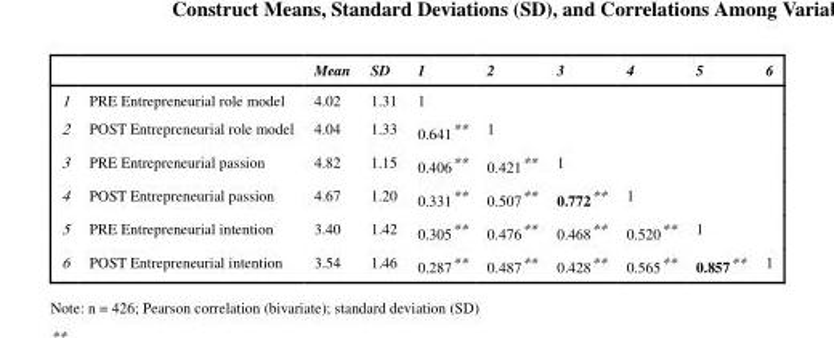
<table><thead><tr><td></td><td></td><td>Mean</td><td>SD</td><td>1</td><td>2</td><td>3</td><td>4</td><td>5</td><td>6</td></tr></thead><tbody><tr><td>1</td><td>PRE Entrepreneurial role model</td><td>4.02</td><td>1.31</td><td>1</td><td></td><td></td><td></td><td></td><td></td></tr><tr><td>2</td><td>POST Entrepreneurial role model</td><td>4.04</td><td>1.33</td><td>0.641**</td><td>1</td><td></td><td></td><td></td><td></td></tr><tr><td>3</td><td>PRE Entrepreneurial passion</td><td>4.82</td><td>1.15</td><td>0.406**</td><td>0.421**</td><td>1</td><td></td><td></td><td></td></tr><tr><td>4</td><td>POST Entrepreneurial passion</td><td>4.67</td><td>1.20</td><td>0.331**</td><td>0.507**</td><td>0.772**</td><td>1</td><td></td><td></td></tr><tr><td>5</td><td>PRE Entrepreneurial intention</td><td>3.40</td><td>1.42</td><td>0.305**</td><td>0.476**</td><td>0.468**</td><td>0.520**</td><td>1</td><td></td></tr><tr><td>6</td><td>POST Entrepreneurial intention</td><td>3.54</td><td>1.46</td><td>0.287**</td><td>0.487**</td><td>0.428**</td><td>0.565**</td><td>0.857**</td><td>1</td></tr></tbody></table>